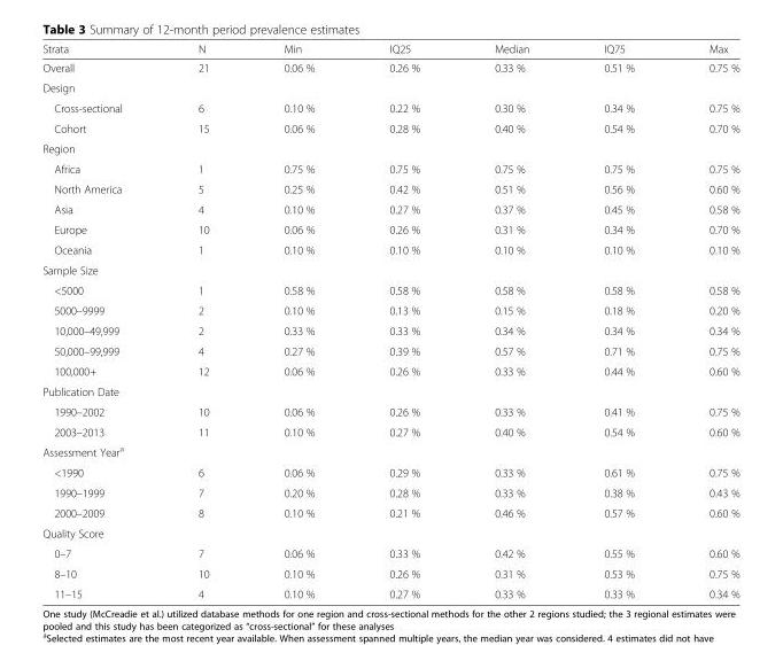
<table><thead><tr><td>Strata</td><td>N</td><td>Min</td><td>IQ25</td><td>Median</td><td>IQ75</td><td>Max</td></tr></thead><tbody><tr><td>Overall</td><td>21</td><td>0.06 %</td><td>0.26 %</td><td>0.33 %</td><td>0.51 %</td><td>0.75 %</td></tr><tr><td colspan="7">Design</td></tr><tr><td>Cross-sectional</td><td>6</td><td>0.10 %</td><td>0.22 %</td><td>0.30 %</td><td>0.34 %</td><td>0.75 %</td></tr><tr><td>Cohort</td><td>15</td><td>0.06 %</td><td>0.28 %</td><td>0.40 %</td><td>0.54 %</td><td>0.70 %</td></tr><tr><td colspan="7">Region</td></tr><tr><td>Africa</td><td>1</td><td>0.75 %</td><td>0.75 %</td><td>0.75 %</td><td>0.75 %</td><td>0.75 %</td></tr><tr><td>North America</td><td>5</td><td>0.25 %</td><td>0.42 %</td><td>0.51 %</td><td>0.56 %</td><td>0.60 %</td></tr><tr><td>Asia</td><td>4</td><td>0.10 %</td><td>0.27 %</td><td>0.37 %</td><td>0.45 %</td><td>0.58 %</td></tr><tr><td>Europe</td><td>10</td><td>0.06 %</td><td>0.26 %</td><td>0.31 %</td><td>0.34 %</td><td>0.70 %</td></tr><tr><td>Oceania</td><td>1</td><td>0.10 %</td><td>0.10 %</td><td>0.10 %</td><td>0.10 %</td><td>0.10 %</td></tr><tr><td colspan="7">Sample Size</td></tr><tr><td>&lt;5000</td><td>1</td><td>0.58 %</td><td>0.58 %</td><td>0.58 %</td><td>0.58 %</td><td>0.58 %</td></tr><tr><td>5000–9999</td><td>2</td><td>0.10 %</td><td>0.13 %</td><td>0.15 %</td><td>0.18 %</td><td>0.20 %</td></tr><tr><td>10,000–49,999</td><td>2</td><td>0.33 %</td><td>0.33 %</td><td>0.34 %</td><td>0.34 %</td><td>0.34 %</td></tr><tr><td>50,000–99,999</td><td>4</td><td>0.27 %</td><td>0.39 %</td><td>0.57 %</td><td>0.71 %</td><td>0.75 %</td></tr><tr><td>100,000+</td><td>12</td><td>0.06 %</td><td>0.26 %</td><td>0.33 %</td><td>0.44 %</td><td>0.60 %</td></tr><tr><td colspan="7">Publication Date</td></tr><tr><td>1990–2002</td><td>10</td><td>0.06 %</td><td>0.26 %</td><td>0.33 %</td><td>0.41 %</td><td>0.75 %</td></tr><tr><td>2003–2013</td><td>11</td><td>0.10 %</td><td>0.27 %</td><td>0.40 %</td><td>0.54 %</td><td>0.60 %</td></tr><tr><td colspan="7">Assessment Year<sup>a</sup></td></tr><tr><td>&lt;1990</td><td>6</td><td>0.06 %</td><td>0.29 %</td><td>0.33 %</td><td>0.61 %</td><td>0.75 %</td></tr><tr><td>1990–1999</td><td>7</td><td>0.20 %</td><td>0.28 %</td><td>0.33 %</td><td>0.38 %</td><td>0.43 %</td></tr><tr><td>2000–2009</td><td>8</td><td>0.10 %</td><td>0.21 %</td><td>0.46 %</td><td>0.57 %</td><td>0.60 %</td></tr><tr><td colspan="7">Quality Score</td></tr><tr><td>0–7</td><td>7</td><td>0.06 %</td><td>0.33 %</td><td>0.42 %</td><td>0.55 %</td><td>0.60 %</td></tr><tr><td>8–10</td><td>10</td><td>0.10 %</td><td>0.26 %</td><td>0.31 %</td><td>0.53 %</td><td>0.75 %</td></tr><tr><td>11–15</td><td>4</td><td>0.10 %</td><td>0.27 %</td><td>0.33 %</td><td>0.33 %</td><td>0.34 %</td></tr></tbody></table>